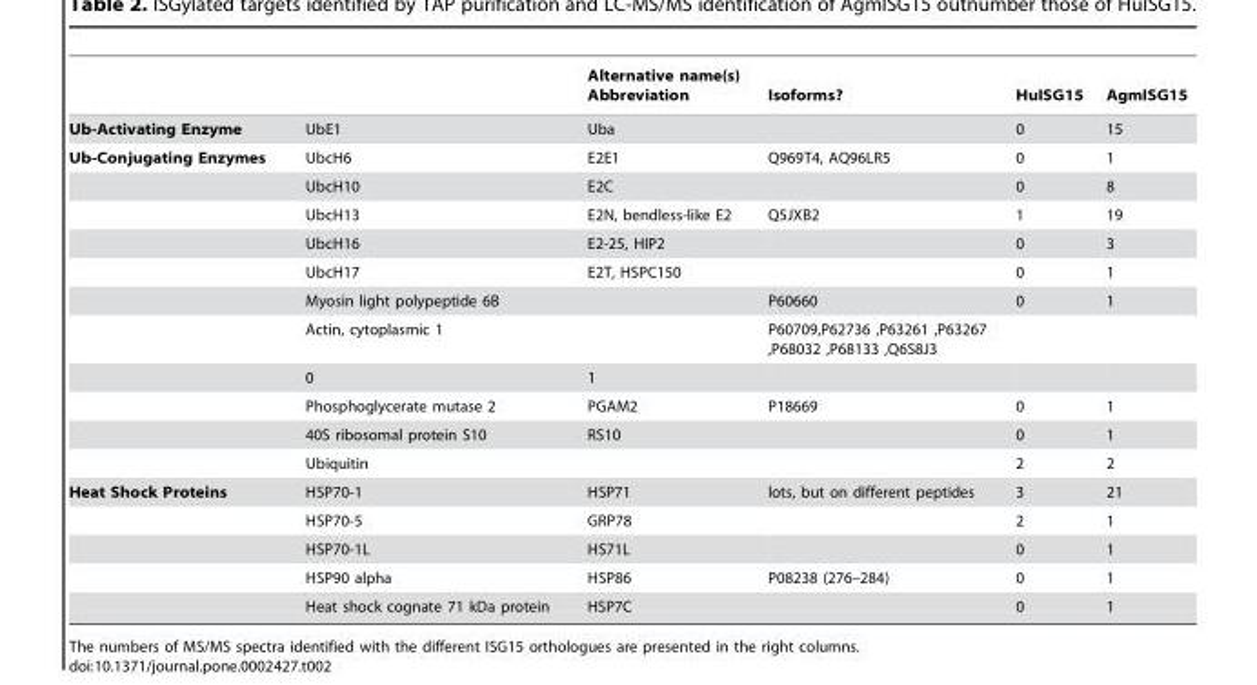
<table><thead><tr><td></td><td></td><td>Alternative name(s) Abbreviation</td><td>Isoforms?</td><td>HuISG15</td><td>AgmISG15</td></tr></thead><tbody><tr><td>Ub-Activating Enzyme</td><td>UbE1</td><td>Uba</td><td></td><td>0</td><td>15</td></tr><tr><td rowspan="11">Ub-Conjugating Enzymes</td><td>UbcH6</td><td>E2E1</td><td>Q969T4, AQ96LR5</td><td>0</td><td>1</td></tr><tr><td>UbcH10</td><td>E2C</td><td></td><td>0</td><td>8</td></tr><tr><td>UbcH13</td><td>E2N, bendless-like E2</td><td>Q5JXB2</td><td>1</td><td>19</td></tr><tr><td>UbcH16</td><td>E2-25, HIP2</td><td></td><td>0</td><td>3</td></tr><tr><td>UbcH17</td><td>E2T, HSPC150</td><td></td><td>0</td><td>1</td></tr><tr><td>Myosin light polypeptide 6B</td><td></td><td>P60660</td><td>0</td><td>1</td></tr><tr><td>Actin, cytoplasmic 1</td><td></td><td>P60709,P62736 ,P63261 ,P63267 ,P68032 ,P68133 ,Q6S8J3</td><td></td><td></td></tr><tr><td>0</td><td>1</td><td></td><td></td><td></td></tr><tr><td>Phosphoglycerate mutase 2</td><td>PGAM2</td><td>P18669</td><td>0</td><td>1</td></tr><tr><td>40S ribosomal protein S10</td><td>RS10</td><td></td><td>0</td><td>1</td></tr><tr><td>Ubiquitin</td><td></td><td></td><td>2</td><td>2</td></tr><tr><td rowspan="5">Heat Shock Proteins</td><td>HSP70-1</td><td>HSP71</td><td>lots, but on different peptides</td><td>3</td><td>21</td></tr><tr><td>HSP70-5</td><td>GRP78</td><td></td><td>2</td><td>1</td></tr><tr><td>HSP70-1L</td><td>HS71L</td><td></td><td>0</td><td>1</td></tr><tr><td>HSP90 alpha</td><td>HSP86</td><td>P08238 (276–284)</td><td>0</td><td>1</td></tr><tr><td>Heat shock cognate 71 kDa protein</td><td>HSP7C</td><td></td><td>0</td><td>1</td></tr></tbody></table>